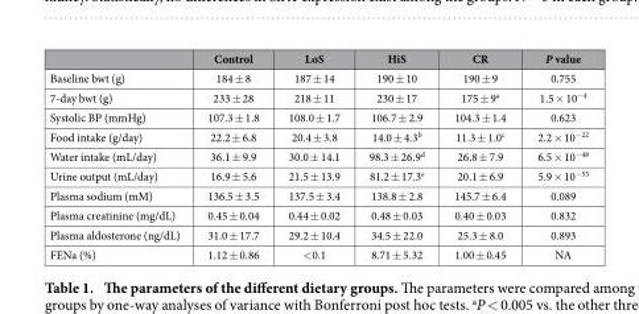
<table><thead><tr><td></td><td>Control</td><td>LoS</td><td>HiS</td><td>CR</td><td>P value</td></tr></thead><tbody><tr><td>Baseline bwt (g)</td><td>184 ± 8</td><td>187 ± 14</td><td>190 ± 10</td><td>190 ± 9</td><td>0.755</td></tr><tr><td>7-day bwt (g)</td><td>233 ± 28</td><td>218 ± 11</td><td>230 ± 17</td><td>175 ± 9<sup>a</sup></td><td>1.5 × 10<sup>−4</sup></td></tr><tr><td>Systolic BP (mmHg)</td><td>107.3 ± 1.8</td><td>108.0 ± 1.7</td><td>106.7 ± 2.9</td><td>104.3 ± 1.4</td><td>0.623</td></tr><tr><td>Food intake (g/day)</td><td>22.2 ± 6.8</td><td>20.4 ± 3.8</td><td>14.0 ± 4.3<sup>b</sup></td><td>11.3 ± 1.0<sup>c</sup></td><td>2.2 × 10<sup>−22</sup></td></tr><tr><td>Water intake (mL/day)</td><td>36.1 ± 9.9</td><td>30.0 ± 14.1</td><td>98.3 ± 26.9<sup>d</sup></td><td>26.8 ± 7.9</td><td>6.5 × 10<sup>−48</sup></td></tr><tr><td>Urine output (mL/day)</td><td>16.9 ± 5.6</td><td>21.5 ± 13.9</td><td>81.2 ± 17.3<sup>e</sup></td><td>20.1 ± 6.9</td><td>5.9 × 10<sup>−55</sup></td></tr><tr><td>Plasma sodium (mM)</td><td>136.5 ± 3.5</td><td>137.5 ± 3.4</td><td>138.8 ± 2.8</td><td>145.7 ± 6.4</td><td>0.089</td></tr><tr><td>Plasma creatinine (mg/dL)</td><td>0.45 ± 0.04</td><td>0.44 ± 0.02</td><td>0.48 ± 0.03</td><td>0.40 ± 0.03</td><td>0.832</td></tr><tr><td>Plasma aldosterone (ng/dL)</td><td>31.0 ± 17.7</td><td>29.2 ± 10.4</td><td>34.5 ± 22.0</td><td>25.3 ± 8.0</td><td>0.893</td></tr><tr><td>FENa (%)</td><td>1.12 ± 0.86</td><td>&lt; 0.1</td><td>8.71 ± 5.32</td><td>1.00 ± 0.45</td><td>NA</td></tr></tbody></table>